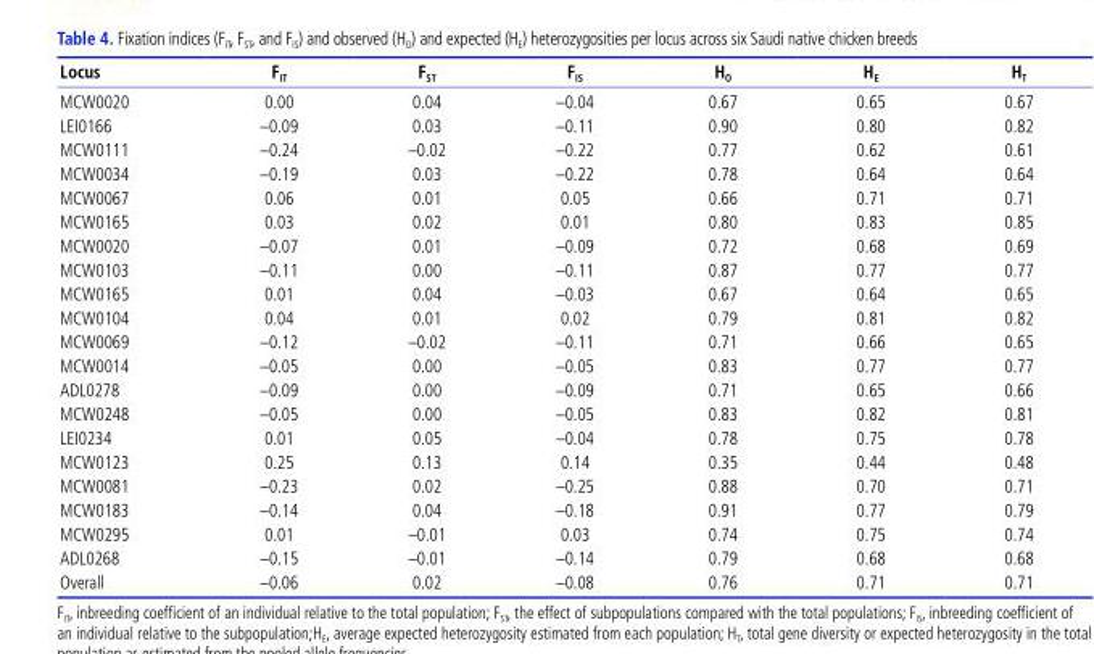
<table><thead><tr><td>Locus</td><td>F<sub>IT</sub></td><td>F<sub>ST</sub></td><td>F<sub>IS</sub></td><td>H<sub>O</sub></td><td>H<sub>E</sub></td><td>H<sub>T</sub></td></tr></thead><tbody><tr><td>MCW0020</td><td>0.00</td><td>0.04</td><td>–0.04</td><td>0.67</td><td>0.65</td><td>0.67</td></tr><tr><td>LEI0166</td><td>–0.09</td><td>0.03</td><td>–0.11</td><td>0.90</td><td>0.80</td><td>0.82</td></tr><tr><td>MCW0111</td><td>–0.24</td><td>–0.02</td><td>–0.22</td><td>0.77</td><td>0.62</td><td>0.61</td></tr><tr><td>MCW0034</td><td>–0.19</td><td>0.03</td><td>–0.22</td><td>0.78</td><td>0.64</td><td>0.64</td></tr><tr><td>MCW0067</td><td>0.06</td><td>0.01</td><td>0.05</td><td>0.66</td><td>0.71</td><td>0.71</td></tr><tr><td>MCW0165</td><td>0.03</td><td>0.02</td><td>0.01</td><td>0.80</td><td>0.83</td><td>0.85</td></tr><tr><td>MCW0020</td><td>–0.07</td><td>0.01</td><td>–0.09</td><td>0.72</td><td>0.68</td><td>0.69</td></tr><tr><td>MCW0103</td><td>–0.11</td><td>0.00</td><td>–0.11</td><td>0.87</td><td>0.77</td><td>0.77</td></tr><tr><td>MCW0165</td><td>0.01</td><td>0.04</td><td>–0.03</td><td>0.67</td><td>0.64</td><td>0.65</td></tr><tr><td>MCW0104</td><td>0.04</td><td>0.01</td><td>0.02</td><td>0.79</td><td>0.81</td><td>0.82</td></tr><tr><td>MCW0069</td><td>–0.12</td><td>–0.02</td><td>–0.11</td><td>0.71</td><td>0.66</td><td>0.65</td></tr><tr><td>MCW0014</td><td>–0.05</td><td>0.00</td><td>–0.05</td><td>0.83</td><td>0.77</td><td>0.77</td></tr><tr><td>ADL0278</td><td>–0.09</td><td>0.00</td><td>–0.09</td><td>0.71</td><td>0.65</td><td>0.66</td></tr><tr><td>MCW0248</td><td>–0.05</td><td>0.00</td><td>–0.05</td><td>0.83</td><td>0.82</td><td>0.81</td></tr><tr><td>LEI0234</td><td>0.01</td><td>0.05</td><td>–0.04</td><td>0.78</td><td>0.75</td><td>0.78</td></tr><tr><td>MCW0123</td><td>0.25</td><td>0.13</td><td>0.14</td><td>0.35</td><td>0.44</td><td>0.48</td></tr><tr><td>MCW0081</td><td>–0.23</td><td>0.02</td><td>–0.25</td><td>0.88</td><td>0.70</td><td>0.71</td></tr><tr><td>MCW0183</td><td>–0.14</td><td>0.04</td><td>–0.18</td><td>0.91</td><td>0.77</td><td>0.79</td></tr><tr><td>MCW0295</td><td>0.01</td><td>–0.01</td><td>0.03</td><td>0.74</td><td>0.75</td><td>0.74</td></tr><tr><td>ADL0268</td><td>–0.15</td><td>–0.01</td><td>–0.14</td><td>0.79</td><td>0.68</td><td>0.68</td></tr><tr><td>Overall</td><td>–0.06</td><td>0.02</td><td>–0.08</td><td>0.76</td><td>0.71</td><td>0.71</td></tr></tbody></table>